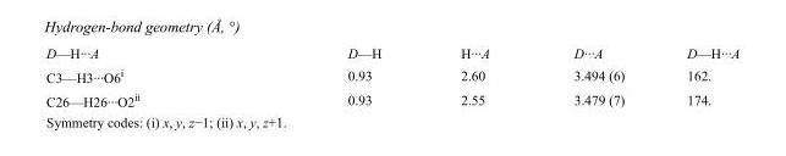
<table><tbody><tr><td>D—H···A</td><td>D—H</td><td>H···A</td><td>D···A</td><td>D—H···A</td></tr><tr><td>C3—H3···O6<sup>i</sup></td><td>0.93</td><td>2.60</td><td>3.494 (6)</td><td>162.</td></tr><tr><td>C26—H26···O2<sup>ii</sup></td><td>0.93</td><td>2.55</td><td>3.479 (7)</td><td>174.</td></tr></tbody></table>